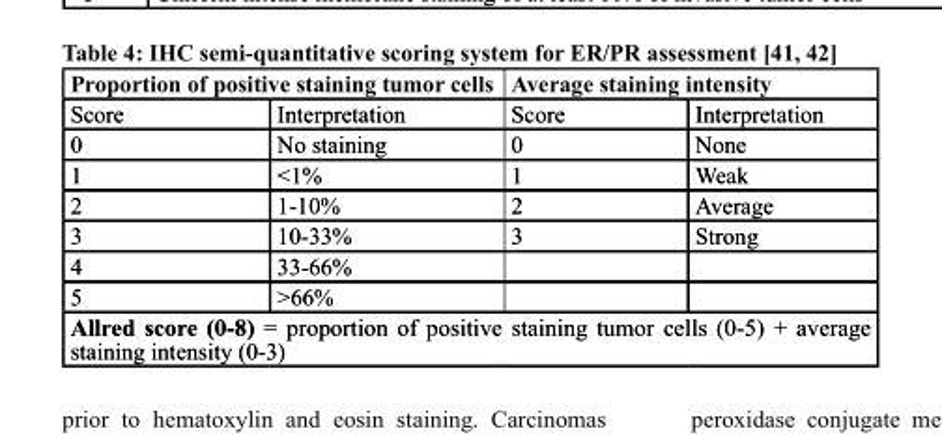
<table><thead><tr><td colspan="2">Proportion of positive staining tumor cells</td><td colspan="2">Average staining intensity</td></tr><tr><td>Score</td><td>Interpretation</td><td>Score</td><td>Interpretation</td></tr></thead><tbody><tr><td>0</td><td>No staining</td><td>0</td><td>None</td></tr><tr><td>1</td><td>&lt;1%</td><td>1</td><td>Weak</td></tr><tr><td>2</td><td>1-10%</td><td>2</td><td>Average</td></tr><tr><td>3</td><td>10-33%</td><td>3</td><td>Strong</td></tr><tr><td>4</td><td>33-66%</td><td></td><td></td></tr><tr><td>5</td><td>&gt;66%</td><td></td><td></td></tr><tr><td colspan="4">Allred score (0-8) = proportion of positive staining tumor cells (0-5) + average staining intensity (0-3)</td></tr></tbody></table>